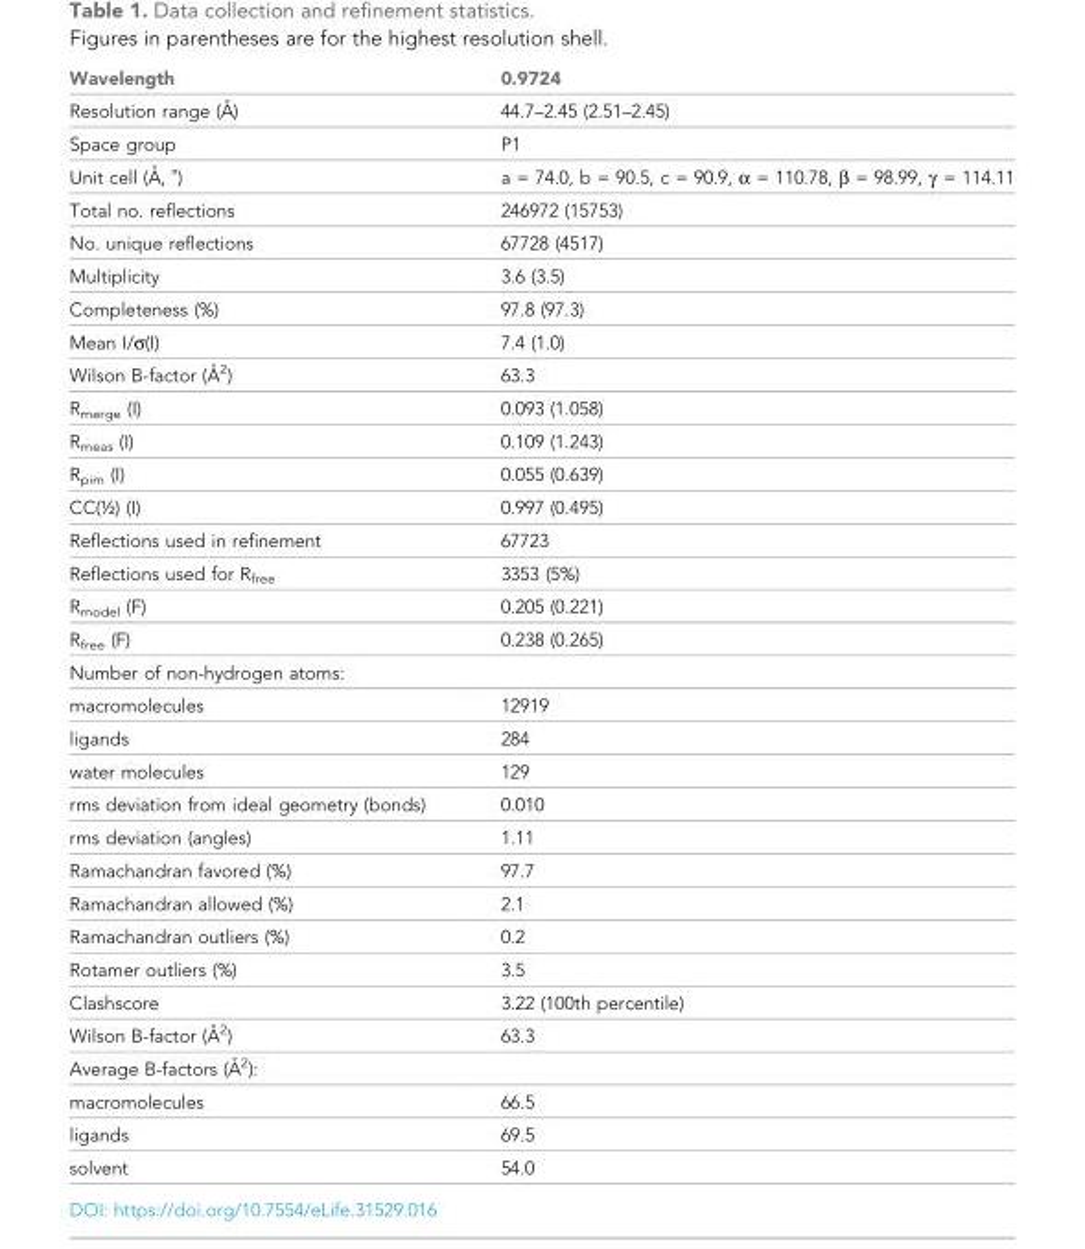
<table><thead><tr><td>Wavelength</td><td>0.9724</td></tr></thead><tbody><tr><td>Resolution range (A˚ )</td><td>44.7–2.45 (2.51–2.45)</td></tr><tr><td>Space group</td><td>P1</td></tr><tr><td>Unit cell (A˚ , ˚)</td><td>a = 74.0, b = 90.5, c = 90.9, α = 110.78, β = 98.99, γ = 114.11</td></tr><tr><td>Total no. reflections</td><td>246972 (15753)</td></tr><tr><td>No. unique reflections</td><td>67728 (4517)</td></tr><tr><td>Multiplicity</td><td>3.6 (3.5)</td></tr><tr><td>Completeness (%)</td><td>97.8 (97.3)</td></tr><tr><td>Mean I/σ(I)</td><td>7.4 (1.0)</td></tr><tr><td>Wilson B-factor (A˚ 2)</td><td>63.3</td></tr><tr><td>R<sub>merge</sub> (I)</td><td>0.093 (1.058)</td></tr><tr><td>R<sub>meas</sub> (I)</td><td>0.109 (1.243)</td></tr><tr><td>R<sub>pim</sub> (I)</td><td>0.055 (0.639)</td></tr><tr><td>CC(½) (I)</td><td>0.997 (0.495)</td></tr><tr><td>Reflections used in refinement</td><td>67723</td></tr><tr><td>Reflections used for R<sub>free</sub></td><td>3353 (5%)</td></tr><tr><td>R<sub>model</sub> (F)</td><td>0.205 (0.221)</td></tr><tr><td>R<sub>free</sub> (F)</td><td>0.238 (0.265)</td></tr><tr><td colspan="2">Number of non-hydrogen atoms:</td></tr><tr><td>macromolecules</td><td>12919</td></tr><tr><td>ligands</td><td>284</td></tr><tr><td>water molecules</td><td>129</td></tr><tr><td>rms deviation from ideal geometry (bonds)</td><td>0.010</td></tr><tr><td>rms deviation (angles)</td><td>1.11</td></tr><tr><td>Ramachandran favored (%)</td><td>97.7</td></tr><tr><td>Ramachandran allowed (%)</td><td>2.1</td></tr><tr><td>Ramachandran outliers (%)</td><td>0.2</td></tr><tr><td>Rotamer outliers (%)</td><td>3.5</td></tr><tr><td>Clashscore</td><td>3.22 (100th percentile)</td></tr><tr><td>Wilson B-factor (A˚ 2)</td><td>63.3</td></tr><tr><td colspan="2">Average B-factors (A˚ 2):</td></tr><tr><td>macromolecules</td><td>66.5</td></tr><tr><td>ligands</td><td>69.5</td></tr><tr><td>solvent</td><td>54.0</td></tr></tbody></table>